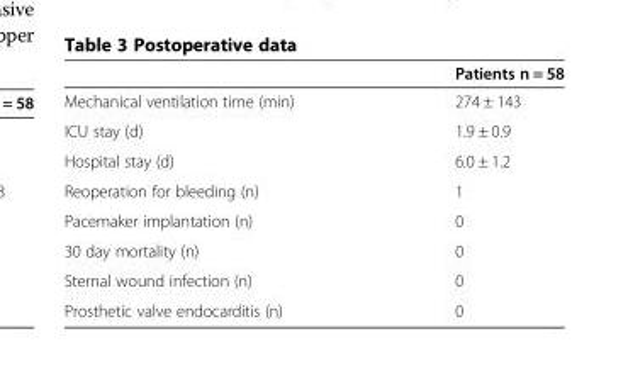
<table><thead><tr><td></td><td>Patients n = 58</td></tr></thead><tbody><tr><td>Mechanical ventilation time (min)</td><td>274 ± 143</td></tr><tr><td>ICU stay (d)</td><td>1.9 ± 0.9</td></tr><tr><td>Hospital stay (d)</td><td>6.0 ± 1.2</td></tr><tr><td>Reoperation for bleeding (n)</td><td>1</td></tr><tr><td>Pacemaker implantation (n)</td><td>0</td></tr><tr><td>30 day mortality (n)</td><td>0</td></tr><tr><td>Sternal wound infection (n)</td><td>0</td></tr><tr><td>Prosthetic valve endocarditis (n)</td><td>0</td></tr></tbody></table>